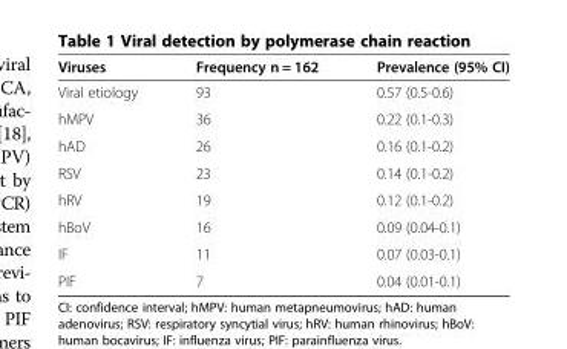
<table><thead><tr><td>Viruses</td><td>Frequency n = 162</td><td>Prevalence (95% CI)</td></tr></thead><tbody><tr><td>Viral etiology</td><td>93</td><td>0.57 (0.5-0.6)</td></tr><tr><td>hMPV</td><td>36</td><td>0.22 (0.1-0.3)</td></tr><tr><td>hAD</td><td>26</td><td>0.16 (0.1-0.2)</td></tr><tr><td>RSV</td><td>23</td><td>0.14 (0.1-0.2)</td></tr><tr><td>hRV</td><td>19</td><td>0.12 (0.1-0.2)</td></tr><tr><td>hBoV</td><td>16</td><td>0.09 (0.04-0.1)</td></tr><tr><td>IF</td><td>11</td><td>0.07 (0.03-0.1)</td></tr><tr><td>PIF</td><td>7</td><td>0.04 (0.01-0.1)</td></tr></tbody></table>